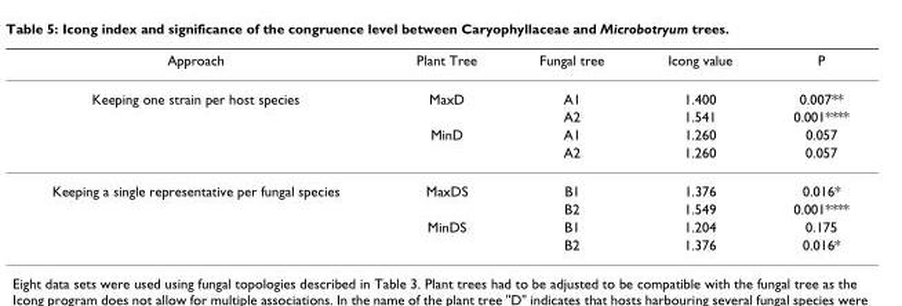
<table><thead><tr><td>Approach</td><td>Plant Tree</td><td>Fungal tree</td><td>Icong value</td><td>P</td></tr></thead><tbody><tr><td rowspan="4">Keeping one strain per host species</td><td>MaxD</td><td>A1</td><td>1.400</td><td>0.007**</td></tr><tr><td></td><td>A2</td><td>1.541</td><td>0.001****</td></tr><tr><td>MinD</td><td>A1</td><td>1.260</td><td>0.057</td></tr><tr><td></td><td>A2</td><td>1.260</td><td>0.057</td></tr><tr><td rowspan="4">Keeping a single representative per fungal species</td><td>MaxDS</td><td>B1</td><td>1.376</td><td>0.016*</td></tr><tr><td></td><td>B2</td><td>1.549</td><td>0.001****</td></tr><tr><td>MinDS</td><td>B1</td><td>1.204</td><td>0.175</td></tr><tr><td></td><td>B2</td><td>1.376</td><td>0.016*</td></tr></tbody></table>